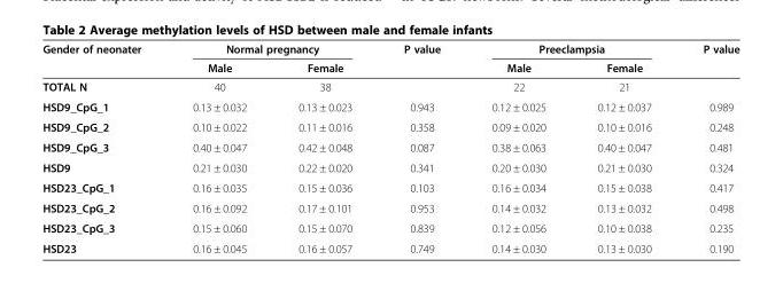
<table><thead><tr><td rowspan="2">Gender of neonater</td><td colspan="2">Normal pregnancy</td><td rowspan="2">P value</td><td colspan="2">Preeclampsia</td><td rowspan="2">P value</td></tr><tr><td>Male</td><td>Female</td><td>Male</td><td>Female</td></tr></thead><tbody><tr><td>TOTAL N</td><td>40</td><td>38</td><td></td><td>22</td><td>21</td><td></td></tr><tr><td>HSD9_CpG_1</td><td>0.13 ± 0.032</td><td>0.13 ± 0.023</td><td>0.943</td><td>0.12 ± 0.025</td><td>0.12 ± 0.037</td><td>0.989</td></tr><tr><td>HSD9_CpG_2</td><td>0.10 ± 0.022</td><td>0.11 ± 0.016</td><td>0.358</td><td>0.09 ± 0.020</td><td>0.10 ± 0.016</td><td>0.248</td></tr><tr><td>HSD9_CpG_3</td><td>0.40 ± 0.047</td><td>0.42 ± 0.048</td><td>0.087</td><td>0.38 ± 0.063</td><td>0.40 ± 0.047</td><td>0.481</td></tr><tr><td>HSD9</td><td>0.21 ± 0.030</td><td>0.22 ± 0.020</td><td>0.341</td><td>0.20 ± 0.030</td><td>0.21 ± 0.030</td><td>0.324</td></tr><tr><td>HSD23_CpG_1</td><td>0.16 ± 0.035</td><td>0.15 ± 0.036</td><td>0.103</td><td>0.16 ± 0.034</td><td>0.15 ± 0.038</td><td>0.417</td></tr><tr><td>HSD23_CpG_2</td><td>0.16 ± 0.092</td><td>0.17 ± 0.101</td><td>0.953</td><td>0.14 ± 0.032</td><td>0.13 ± 0.032</td><td>0.498</td></tr><tr><td>HSD23_CpG_3</td><td>0.15 ± 0.060</td><td>0.15 ± 0.070</td><td>0.839</td><td>0.12 ± 0.056</td><td>0.10 ± 0.038</td><td>0.235</td></tr><tr><td>HSD23</td><td>0.16 ± 0.045</td><td>0.16 ± 0.057</td><td>0.749</td><td>0.14 ± 0.030</td><td>0.13 ± 0.030</td><td>0.190</td></tr></tbody></table>